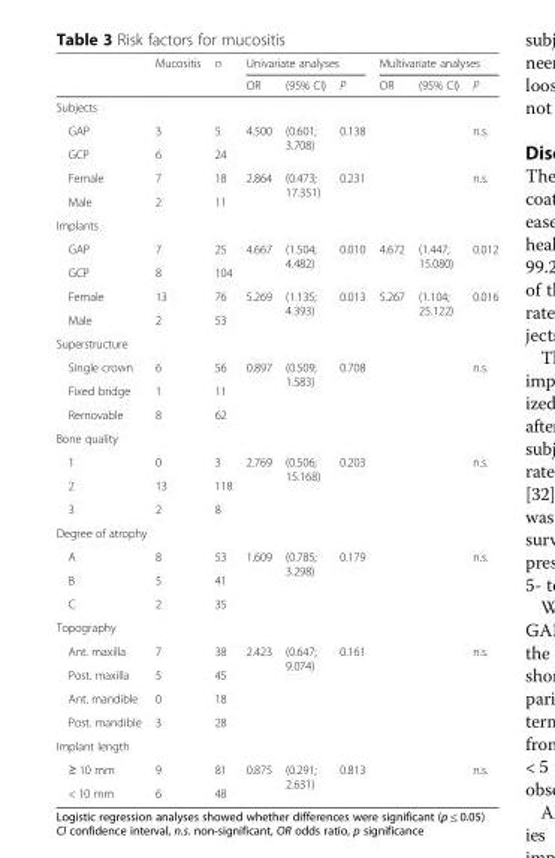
<table><thead><tr><td rowspan="2"></td><td rowspan="2">Mucositis</td><td rowspan="2">n</td><td colspan="3">Univariate analyses</td><td colspan="3">Multivariate analyses</td></tr><tr><td>OR</td><td>(95% CI)</td><td>P</td><td>OR</td><td>(95% CI)</td><td>P</td></tr></thead><tbody><tr><td colspan="9">Subjects</td></tr><tr><td>GAP</td><td>3</td><td>5</td><td rowspan="2">4.500</td><td rowspan="2">(0.601; 3.708)</td><td rowspan="2">0.138</td><td></td><td></td><td rowspan="2">n.s.</td></tr><tr><td>GCP</td><td>6</td><td>24</td><td></td><td></td></tr><tr><td>Female</td><td>7</td><td>18</td><td rowspan="2">2.864</td><td rowspan="2">(0.473; 17.351)</td><td rowspan="2">0.231</td><td></td><td></td><td rowspan="2">n.s.</td></tr><tr><td>Male</td><td>2</td><td>11</td><td></td><td></td></tr><tr><td colspan="9">Implants</td></tr><tr><td>GAP</td><td>7</td><td>25</td><td rowspan="2">4.667</td><td rowspan="2">(1.504; 4.482)</td><td rowspan="2">0.010</td><td rowspan="2">4.672</td><td rowspan="2">(1.447; 15.080)</td><td rowspan="2">0.012</td></tr><tr><td>GCP</td><td>8</td><td>104</td></tr><tr><td>Female</td><td>13</td><td>76</td><td rowspan="2">5.269</td><td rowspan="2">(1.135; 4.393)</td><td rowspan="2">0.013</td><td rowspan="2">5.267</td><td rowspan="2">(1.104; 25.122)</td><td rowspan="2">0.016</td></tr><tr><td>Male</td><td>2</td><td>53</td></tr><tr><td colspan="9">Superstructure</td></tr><tr><td>Single crown</td><td>6</td><td>56</td><td rowspan="3">0.897</td><td rowspan="3">(0.509; 1.583)</td><td rowspan="3">0.708</td><td></td><td></td><td rowspan="3">n.s.</td></tr><tr><td>Fixed bridge</td><td>1</td><td>11</td><td></td><td></td></tr><tr><td>Removable</td><td>8</td><td>62</td><td></td><td></td></tr><tr><td colspan="9">Bone quality</td></tr><tr><td>1</td><td>0</td><td>3</td><td rowspan="3">2.769</td><td rowspan="3">(0.506; 15.168)</td><td rowspan="3">0.203</td><td></td><td></td><td rowspan="3">n.s.</td></tr><tr><td>2</td><td>13</td><td>118</td><td></td><td></td></tr><tr><td>3</td><td>2</td><td>8</td><td></td><td></td></tr><tr><td colspan="9">Degree of atrophy</td></tr><tr><td>A</td><td>8</td><td>53</td><td rowspan="3">1.609</td><td rowspan="3">(0.785; 3.298)</td><td rowspan="3">0.179</td><td></td><td></td><td rowspan="3">n.s.</td></tr><tr><td>B</td><td>5</td><td>41</td><td></td><td></td></tr><tr><td>C</td><td>2</td><td>35</td><td></td><td></td></tr><tr><td colspan="9">Topography</td></tr><tr><td>Ant. maxilla</td><td>7</td><td>38</td><td rowspan="4">2.423</td><td rowspan="4">(0.647; 9.074)</td><td rowspan="4">0.161</td><td></td><td></td><td rowspan="4">n.s.</td></tr><tr><td>Post. maxilla</td><td>5</td><td>45</td><td></td><td></td></tr><tr><td>Ant. mandible</td><td>0</td><td>18</td><td></td><td></td></tr><tr><td>Post. mandible</td><td>3</td><td>28</td><td></td><td></td></tr><tr><td colspan="9">Implant length</td></tr><tr><td>≥ 10 mm</td><td>9</td><td>81</td><td rowspan="2">0.875</td><td rowspan="2">(0.291; 2.631)</td><td rowspan="2">0.813</td><td rowspan="2"></td><td rowspan="2"></td><td rowspan="2">n.s.</td></tr><tr><td>&lt; 10 mm</td><td>6</td><td>48</td></tr></tbody></table>